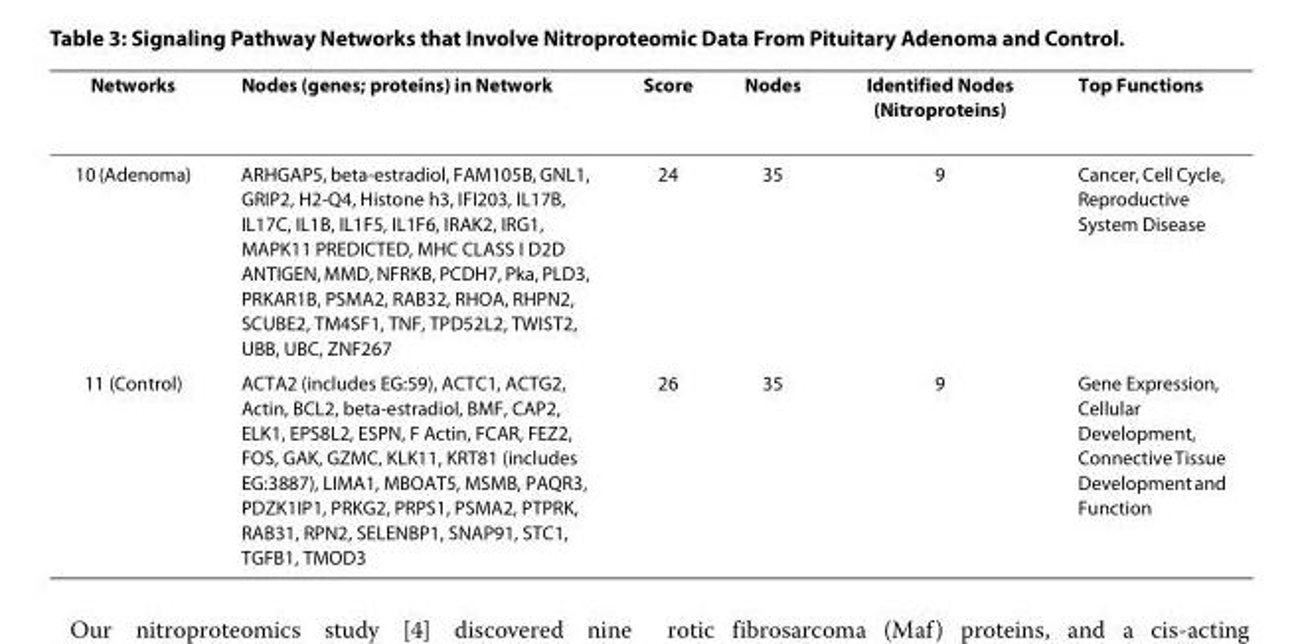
<table><thead><tr><td>Networks</td><td>Nodes (genes; proteins) in Network</td><td>Score</td><td>Nodes</td><td>Identified Nodes (Nitroproteins)</td><td>Top Functions</td></tr></thead><tbody><tr><td>10 (Adenoma)</td><td>ARHGAP5, beta-estradiol, FAM105B, GNL1, GRIP2, H2-Q4, Histone h3, IFI203, IL17B, IL17C, IL1B, IL1F5, IL1F6, IRAK2, IRG1, MAPK11 PREDICTED, MHC CLASS I D2D ANTIGEN, MMD, NFRKB, PCDH7, Pka, PLD3, PRKAR1B, PSMA2, RAB32, RHOA, RHPN2, SCUBE2, TM4SF1, TNF, TPD52L2, TWIST2, UBB, UBC, ZNF267</td><td>24</td><td>35</td><td>9</td><td>Cancer, Cell Cycle, Reproductive System Disease</td></tr><tr><td>11 (Control)</td><td>ACTA2 (includes EG:59), ACTC1, ACTG2, Actin, BCL2, beta-estradiol, BMF, CAP2, ELK1, EPS8L2, ESPN, F Actin, FCAR, FEZ2, FOS, GAK, GZMC, KLK11, KRT81 (includes EG:3887), LIMA1, MBOAT5, MSMB, PAQR3, PDZK1IP1, PRKG2, PRPS1, PSMA2, PTPRK, RAB31, RPN2, SELENBP1, SNAP91, STC1, TGFB1, TMOD3</td><td>26</td><td>35</td><td>9</td><td>Gene Expression, Cellular Development, Connective Tissue Development and Function</td></tr></tbody></table>